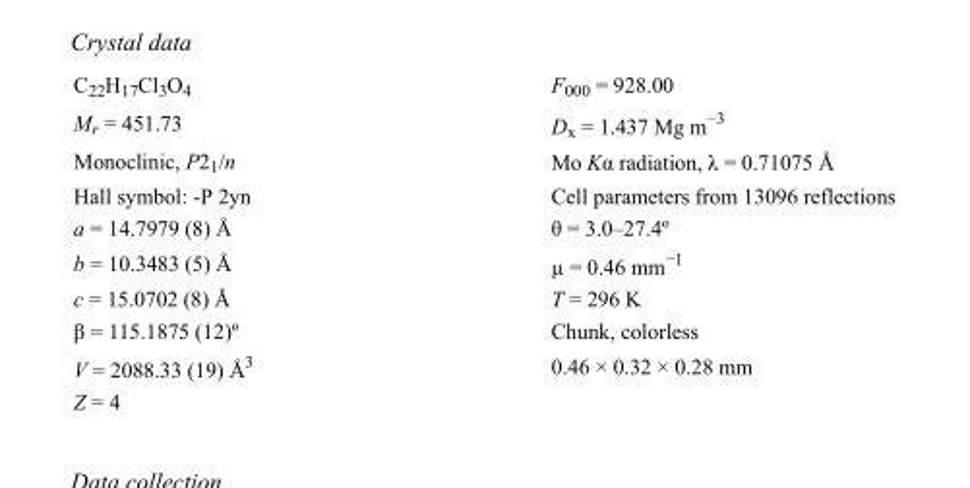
<table><tbody><tr><td>C<sub>22</sub>H<sub>17</sub>Cl<sub>3</sub>O<sub>4</sub></td><td>F000 = 928.00</td></tr><tr><td>M<sub>r</sub> = 451.73</td><td>D<sub>x</sub> = 1.437 Mg m<sup>−3</sup></td></tr><tr><td>Monoclinic, P2<sub>1</sub>/n</td><td>Mo Kα radiation, λ = 0.71075 Å</td></tr><tr><td>Hall symbol: -P 2yn</td><td>Cell parameters from 13096 reflections</td></tr><tr><td>a = 14.7979 (8) Å</td><td>θ = 3.0–27.4º</td></tr><tr><td>b = 10.3483 (5) Å</td><td>µ = 0.46 mm<sup>−1</sup></td></tr><tr><td>c = 15.0702 (8) Å</td><td>T = 296 K</td></tr><tr><td>β = 115.1875 (12)º</td><td>Chunk, colorless</td></tr><tr><td>V = 2088.33 (19) Å<sup>3</sup></td><td>0.46 × 0.32 × 0.28 mm</td></tr><tr><td>Z = 4</td><td></td></tr></tbody></table>